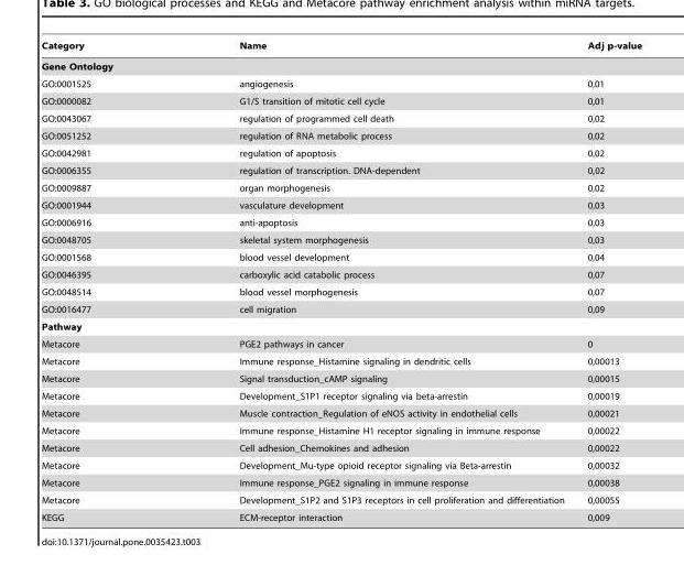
<table><thead><tr><td>Category</td><td>Name</td><td>Adj p-value</td></tr></thead><tbody><tr><td colspan="3">Gene Ontology</td></tr><tr><td>GO:0001525</td><td>angiogenesis</td><td>0,01</td></tr><tr><td>GO:0000082</td><td>G1/S transition of mitotic cell cycle</td><td>0,01</td></tr><tr><td>GO:0043067</td><td>regulation of programmed cell death</td><td>0,02</td></tr><tr><td>GO:0051252</td><td>regulation of RNA metabolic process</td><td>0,02</td></tr><tr><td>GO:0042981</td><td>regulation of apoptosis</td><td>0,02</td></tr><tr><td>GO:0006355</td><td>regulation of transcription. DNA-dependent</td><td>0,02</td></tr><tr><td>GO:0009887</td><td>organ morphogenesis</td><td>0,02</td></tr><tr><td>GO:0001944</td><td>vasculature development</td><td>0,03</td></tr><tr><td>GO:0006916</td><td>anti-apoptosis</td><td>0,03</td></tr><tr><td>GO:0048705</td><td>skeletal system morphogenesis</td><td>0,03</td></tr><tr><td>GO:0001568</td><td>blood vessel development</td><td>0,04</td></tr><tr><td>GO:0046395</td><td>carboxylic acid catabolic process</td><td>0,07</td></tr><tr><td>GO:0048514</td><td>blood vessel morphogenesis</td><td>0,07</td></tr><tr><td>GO:0016477</td><td>cell migration</td><td>0,09</td></tr><tr><td colspan="3">Pathway</td></tr><tr><td>Metacore</td><td>PGE2 pathways in cancer</td><td>0</td></tr><tr><td>Metacore</td><td>Immune response_Histamine signaling in dendritic cells</td><td>0,00013</td></tr><tr><td>Metacore</td><td>Signal transduction_cAMP signaling</td><td>0,00015</td></tr><tr><td>Metacore</td><td>Development_S1P1 receptor signaling via beta-arrestin</td><td>0,00019</td></tr><tr><td>Metacore</td><td>Muscle contraction_Regulation of eNOS activity in endothelial cells</td><td>0,00021</td></tr><tr><td>Metacore</td><td>Immune response_Histamine H1 receptor signaling in immune response</td><td>0,00022</td></tr><tr><td>Metacore</td><td>Cell adhesion_Chemokines and adhesion</td><td>0,00022</td></tr><tr><td>Metacore</td><td>Development_Mu-type opioid receptor signaling via Beta-arrestin</td><td>0,00032</td></tr><tr><td>Metacore</td><td>Immune response_PGE2 signaling in immune response</td><td>0,00038</td></tr><tr><td>Metacore</td><td>Development_S1P2 and S1P3 receptors in cell proliferation and differentiation</td><td>0,00055</td></tr><tr><td>KEGG</td><td>ECM-receptor interaction</td><td>0,009</td></tr></tbody></table>